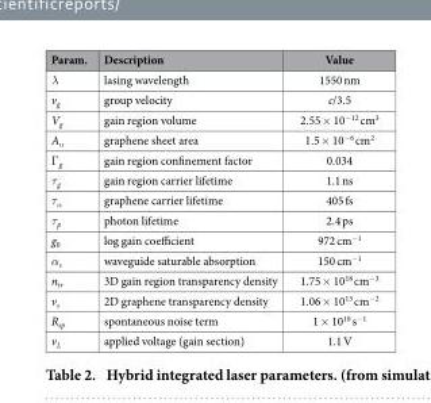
<table><thead><tr><td>Param.</td><td>Description</td><td>Value</td></tr></thead><tbody><tr><td>λ</td><td>lasing wavelength</td><td>1550 nm</td></tr><tr><td>v<sub>g</sub></td><td>group velocity</td><td>c/3.5</td></tr><tr><td>V<sub>g</sub></td><td>gain region volume</td><td>2.55 × 10<sup>−12</sup> cm<sup>3</sup></td></tr><tr><td>A<sub>α</sub></td><td>graphene sheet area</td><td>1.5 × 10<sup>−6</sup> cm<sup>2</sup></td></tr><tr><td>Γ <sub>g</sub></td><td>gain region confinement factor</td><td>0.034</td></tr><tr><td>τ<sub>g</sub></td><td>gain region carrier lifetime</td><td>1.1 ns</td></tr><tr><td>τ<sub>α</sub></td><td>graphene carrier lifetime</td><td>405 fs</td></tr><tr><td>τ<sub>p</sub></td><td>photon lifetime</td><td>2.4 ps</td></tr><tr><td>g<sub>0</sub></td><td>log gain coefficient</td><td>972 cm<sup>−1</sup></td></tr><tr><td>α<sub>s</sub></td><td>waveguide saturable absorption</td><td>150 cm<sup>−1</sup></td></tr><tr><td>n<sub>tr</sub></td><td>3D gain region transparency density</td><td>1.75 × 10<sup>18</sup> cm<sup>−3</sup></td></tr><tr><td>v<sub>s</sub></td><td>2D graphene transparency density</td><td>1.06 × 10<sup>13</sup> cm<sup>−2</sup></td></tr><tr><td>R<sub>sp</sub></td><td>spontaneous noise term</td><td>1 × 10<sup>10</sup> s<sup>−1</sup></td></tr><tr><td>v<sub>L</sub></td><td>applied voltage (gain section)</td><td>1.1 V</td></tr></tbody></table>